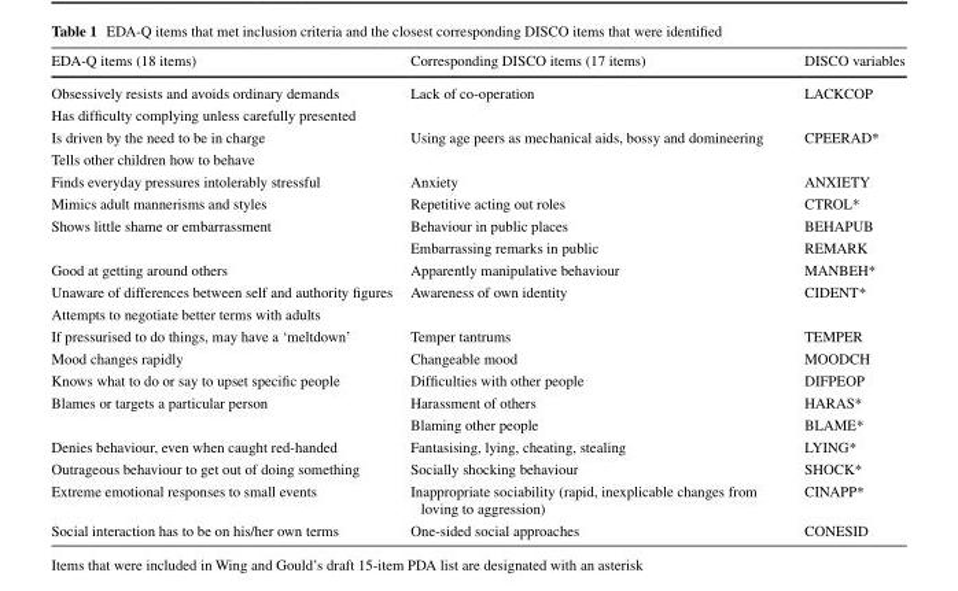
<table><thead><tr><td>EDA-Q items (18 items)</td><td>Corresponding DISCO items (17 items)</td><td>DISCO variables</td></tr></thead><tbody><tr><td>Obsessively resists and avoids ordinary demands</td><td rowspan="2">Lack of co-operation</td><td rowspan="2">LACKCOP</td></tr><tr><td>Has difficulty complying unless carefully presented</td></tr><tr><td>Is driven by the need to be in charge</td><td rowspan="2">Using age peers as mechanical aids, bossy and domineering</td><td rowspan="2">CPEERAD*</td></tr><tr><td>Tells other children how to behave</td></tr><tr><td>Finds everyday pressures intolerably stressful</td><td>Anxiety</td><td>ANXIETY</td></tr><tr><td>Mimics adult mannerisms and styles</td><td>Repetitive acting out roles</td><td>CTROL*</td></tr><tr><td rowspan="2">Shows little shame or embarrassment</td><td>Behaviour in public places</td><td>BEHAPUB</td></tr><tr><td>Embarrassing remarks in public</td><td>REMARK</td></tr><tr><td>Good at getting around others</td><td>Apparently manipulative behaviour</td><td>MANBEH*</td></tr><tr><td>Unaware of differences between self and authority figures</td><td rowspan="2">Awareness of own identity</td><td rowspan="2">CIDENT*</td></tr><tr><td>Attempts to negotiate better terms with adults</td></tr><tr><td>If pressurised to do things, may have a ‘meltdown’</td><td>Temper tantrums</td><td>TEMPER</td></tr><tr><td>Mood changes rapidly</td><td>Changeable mood</td><td>MOODCH</td></tr><tr><td>Knows what to do or say to upset specific people</td><td>Difficulties with other people</td><td>DIFPEOP</td></tr><tr><td rowspan="2">Blames or targets a particular person</td><td>Harassment of others</td><td>HARAS*</td></tr><tr><td>Blaming other people</td><td>BLAME*</td></tr><tr><td>Denies behaviour, even when caught red-handed</td><td>Fantasising, lying, cheating, stealing</td><td>LYING*</td></tr><tr><td>Outrageous behaviour to get out of doing something</td><td>Socially shocking behaviour</td><td>SHOCK*</td></tr><tr><td>Extreme emotional responses to small events</td><td>Inappropriate sociability (rapid, inexplicable changes from loving to aggression)</td><td>CINAPP*</td></tr><tr><td>Social interaction has to be on his/her own terms</td><td>One-sided social approaches</td><td>CONESID</td></tr></tbody></table>